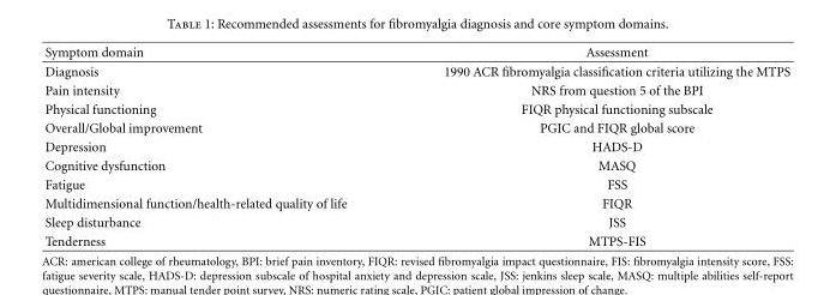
<table><thead><tr><td>Symptom domain</td><td>Assessment</td></tr></thead><tbody><tr><td>Diagnosis</td><td>1990 ACR fibromyalgia classification criteria utilizing the MTPS</td></tr><tr><td>Pain intensity</td><td>NRS from question 5 of the BPI</td></tr><tr><td>Physical functioning</td><td>FIQR physical functioning subscale</td></tr><tr><td>Overall/Global improvement</td><td>PGIC and FIQR global score</td></tr><tr><td>Depression</td><td>HADS-D</td></tr><tr><td>Cognitive dysfunction</td><td>MASQ</td></tr><tr><td>Fatigue</td><td>FSS</td></tr><tr><td>Multidimensional function/health-related quality of life</td><td>FIQR</td></tr><tr><td>Sleep disturbance</td><td>JSS</td></tr><tr><td>Tenderness</td><td>MTPS-FIS</td></tr></tbody></table>